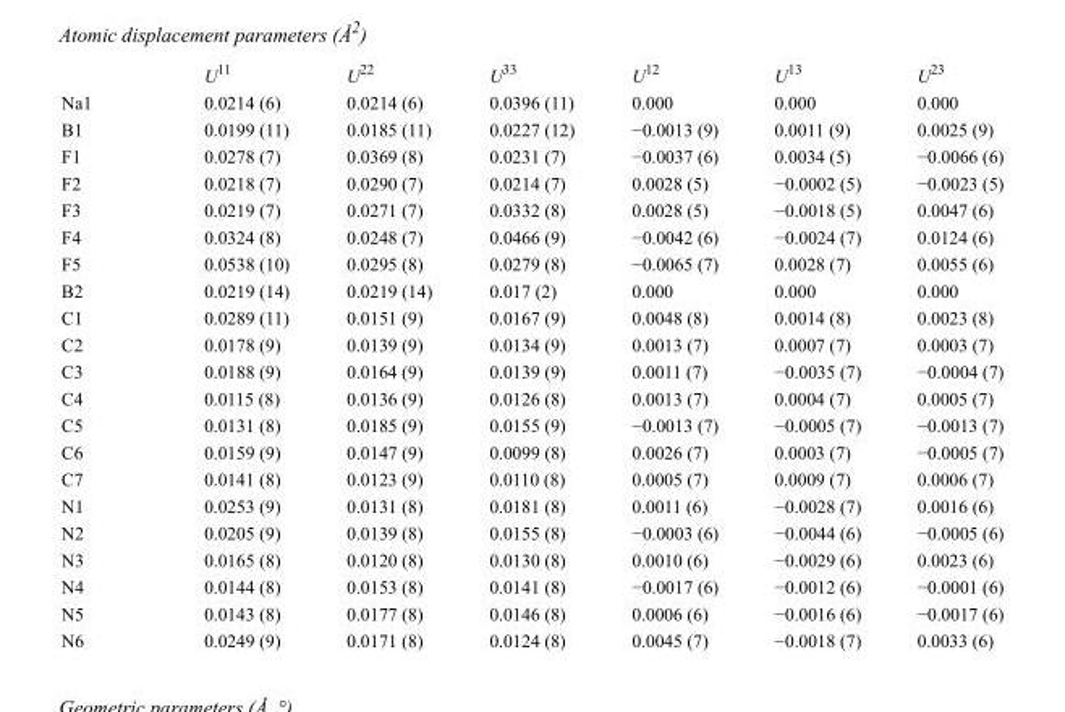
<table><thead><tr><td></td><td>U<sup>11</sup></td><td>U<sup>22</sup></td><td>U<sup>33</sup></td><td>U<sup>12</sup></td><td>U<sup>13</sup></td><td>U<sup>23</sup></td></tr></thead><tbody><tr><td>Na1</td><td>0.0214 (6)</td><td>0.0214 (6)</td><td>0.0396 (11)</td><td>0.000</td><td>0.000</td><td>0.000</td></tr><tr><td>B1</td><td>0.0199 (11)</td><td>0.0185 (11)</td><td>0.0227 (12)</td><td>−0.0013 (9)</td><td>0.0011 (9)</td><td>0.0025 (9)</td></tr><tr><td>F1</td><td>0.0278 (7)</td><td>0.0369 (8)</td><td>0.0231 (7)</td><td>−0.0037 (6)</td><td>0.0034 (5)</td><td>−0.0066 (6)</td></tr><tr><td>F2</td><td>0.0218 (7)</td><td>0.0290 (7)</td><td>0.0214 (7)</td><td>0.0028 (5)</td><td>−0.0002 (5)</td><td>−0.0023 (5)</td></tr><tr><td>F3</td><td>0.0219 (7)</td><td>0.0271 (7)</td><td>0.0332 (8)</td><td>0.0028 (5)</td><td>−0.0018 (5)</td><td>0.0047 (6)</td></tr><tr><td>F4</td><td>0.0324 (8)</td><td>0.0248 (7)</td><td>0.0466 (9)</td><td>−0.0042 (6)</td><td>−0.0024 (7)</td><td>0.0124 (6)</td></tr><tr><td>F5</td><td>0.0538 (10)</td><td>0.0295 (8)</td><td>0.0279 (8)</td><td>−0.0065 (7)</td><td>0.0028 (7)</td><td>0.0055 (6)</td></tr><tr><td>B2</td><td>0.0219 (14)</td><td>0.0219 (14)</td><td>0.017 (2)</td><td>0.000</td><td>0.000</td><td>0.000</td></tr><tr><td>C1</td><td>0.0289 (11)</td><td>0.0151 (9)</td><td>0.0167 (9)</td><td>0.0048 (8)</td><td>0.0014 (8)</td><td>0.0023 (8)</td></tr><tr><td>C2</td><td>0.0178 (9)</td><td>0.0139 (9)</td><td>0.0134 (9)</td><td>0.0013 (7)</td><td>0.0007 (7)</td><td>0.0003 (7)</td></tr><tr><td>C3</td><td>0.0188 (9)</td><td>0.0164 (9)</td><td>0.0139 (9)</td><td>0.0011 (7)</td><td>−0.0035 (7)</td><td>−0.0004 (7)</td></tr><tr><td>C4</td><td>0.0115 (8)</td><td>0.0136 (9)</td><td>0.0126 (8)</td><td>0.0013 (7)</td><td>0.0004 (7)</td><td>0.0005 (7)</td></tr><tr><td>C5</td><td>0.0131 (8)</td><td>0.0185 (9)</td><td>0.0155 (9)</td><td>−0.0013 (7)</td><td>−0.0005 (7)</td><td>−0.0013 (7)</td></tr><tr><td>C6</td><td>0.0159 (9)</td><td>0.0147 (9)</td><td>0.0099 (8)</td><td>0.0026 (7)</td><td>0.0003 (7)</td><td>−0.0005 (7)</td></tr><tr><td>C7</td><td>0.0141 (8)</td><td>0.0123 (9)</td><td>0.0110 (8)</td><td>0.0005 (7)</td><td>0.0009 (7)</td><td>0.0006 (7)</td></tr><tr><td>N1</td><td>0.0253 (9)</td><td>0.0131 (8)</td><td>0.0181 (8)</td><td>0.0011 (6)</td><td>−0.0028 (7)</td><td>0.0016 (6)</td></tr><tr><td>N2</td><td>0.0205 (9)</td><td>0.0139 (8)</td><td>0.0155 (8)</td><td>−0.0003 (6)</td><td>−0.0044 (6)</td><td>−0.0005 (6)</td></tr><tr><td>N3</td><td>0.0165 (8)</td><td>0.0120 (8)</td><td>0.0130 (8)</td><td>0.0010 (6)</td><td>−0.0029 (6)</td><td>0.0023 (6)</td></tr><tr><td>N4</td><td>0.0144 (8)</td><td>0.0153 (8)</td><td>0.0141 (8)</td><td>−0.0017 (6)</td><td>−0.0012 (6)</td><td>−0.0001 (6)</td></tr><tr><td>N5</td><td>0.0143 (8)</td><td>0.0177 (8)</td><td>0.0146 (8)</td><td>0.0006 (6)</td><td>−0.0016 (6)</td><td>−0.0017 (6)</td></tr><tr><td>N6</td><td>0.0249 (9)</td><td>0.0171 (8)</td><td>0.0124 (8)</td><td>0.0045 (7)</td><td>−0.0018 (7)</td><td>0.0033 (6)</td></tr></tbody></table>